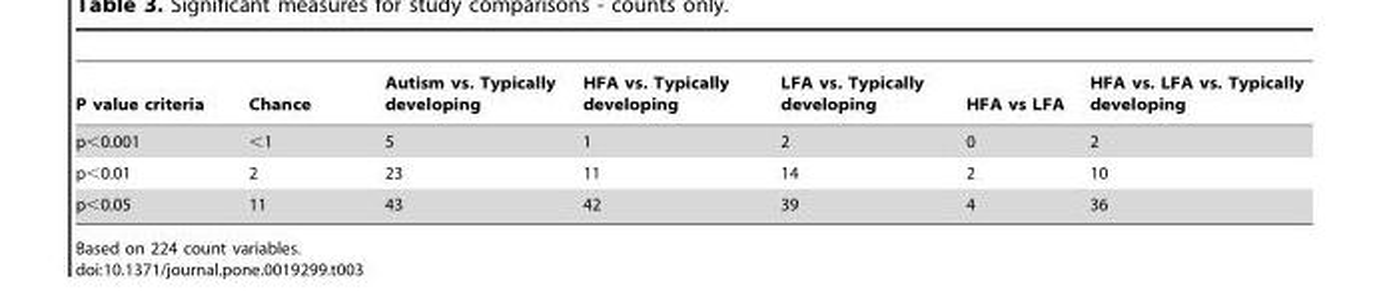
<table><thead><tr><td>P value criteria</td><td>Chance</td><td>Autism vs. Typically developing</td><td>HFA vs. Typically developing</td><td>LFA vs. Typically developing</td><td>HFA vs LFA</td><td>HFA vs. LFA vs. Typically developing</td></tr></thead><tbody><tr><td>p&lt;0.001</td><td>&lt;1</td><td>5</td><td>1</td><td>2</td><td>0</td><td>2</td></tr><tr><td>p&lt;0.01</td><td>2</td><td>23</td><td>11</td><td>14</td><td>2</td><td>10</td></tr><tr><td>p&lt;0.05</td><td>11</td><td>43</td><td>42</td><td>39</td><td>4</td><td>36</td></tr></tbody></table>